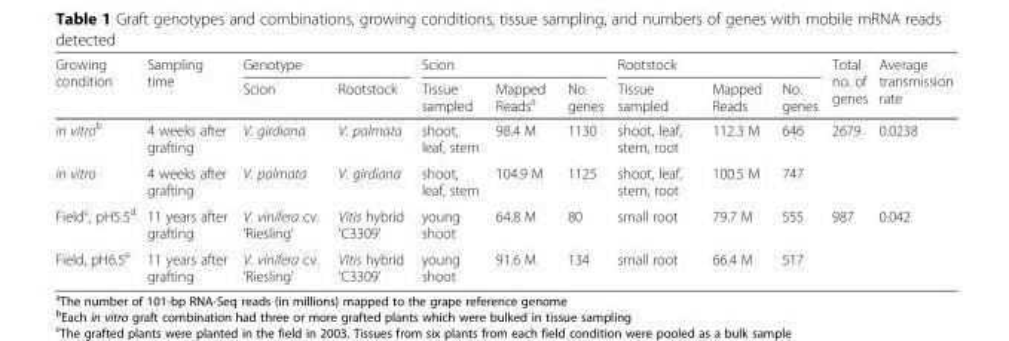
<table><thead><tr><td rowspan="2">Growing condition</td><td rowspan="2">Sampling time</td><td colspan="2">Genotype</td><td colspan="3">Scion</td><td colspan="3">Rootstock</td><td rowspan="2">Total no. of genes</td><td rowspan="2">Average transmission rate</td></tr><tr><td>Scion</td><td>Rootstock</td><td>Tissue sampled</td><td>Mapped Reads<sup>a</sup></td><td>No. genes</td><td>Tissue sampled</td><td>Mapped Reads</td><td>No. genes</td></tr></thead><tbody><tr><td>in vitro<sup>b</sup></td><td>4 weeks after grafting</td><td>V. girdiana</td><td>V. palmata</td><td>shoot, leaf, stem</td><td>98.4 M</td><td>1130</td><td>shoot, leaf, stem, root</td><td>112.3 M</td><td>646</td><td rowspan="2">2679</td><td rowspan="2">0.0238</td></tr><tr><td>in vitro</td><td>4 weeks after grafting</td><td>V. palmata</td><td>V. girdiana</td><td>shoot, leaf, stem</td><td>104.9 M</td><td>1125</td><td>shoot, leaf, stem, root</td><td>100.5 M</td><td>747</td></tr><tr><td>Field<sup>c</sup>, pH5.5<sup>d</sup></td><td>11 years after grafting</td><td>V. vinifera cv. ‘Riesling’</td><td>Vitis hybrid ‘C3309’</td><td>young shoot</td><td>64.8 M</td><td>80</td><td>small root</td><td>79.7 M</td><td>555</td><td rowspan="2">987</td><td rowspan="2">0.042</td></tr><tr><td>Field, pH6.5<sup>e</sup></td><td>11 years after grafting</td><td>V. vinifera cv. ‘Riesling’</td><td>Vitis hybrid ‘C3309’</td><td>young shoot</td><td>91.6 M</td><td>134</td><td>small root</td><td>66.4 M</td><td>517</td></tr></tbody></table>